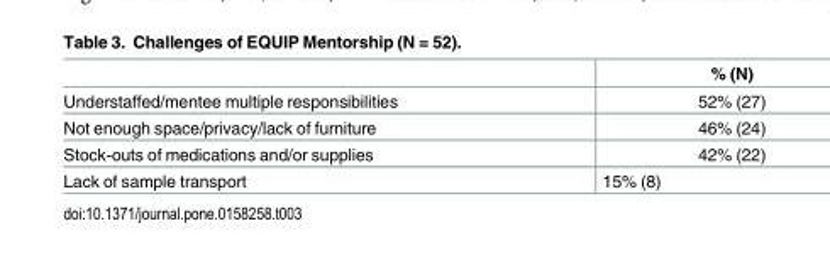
<table><thead><tr><td></td><td>% (N)</td></tr></thead><tbody><tr><td>Understaffed/mentee multiple responsibilities</td><td>52% (27)</td></tr><tr><td>Not enough space/privacy/lack of furniture</td><td>46% (24)</td></tr><tr><td>Stock-outs of medications and/or supplies</td><td>42% (22)</td></tr><tr><td>Lack of sample transport</td><td>15% (8)</td></tr></tbody></table>